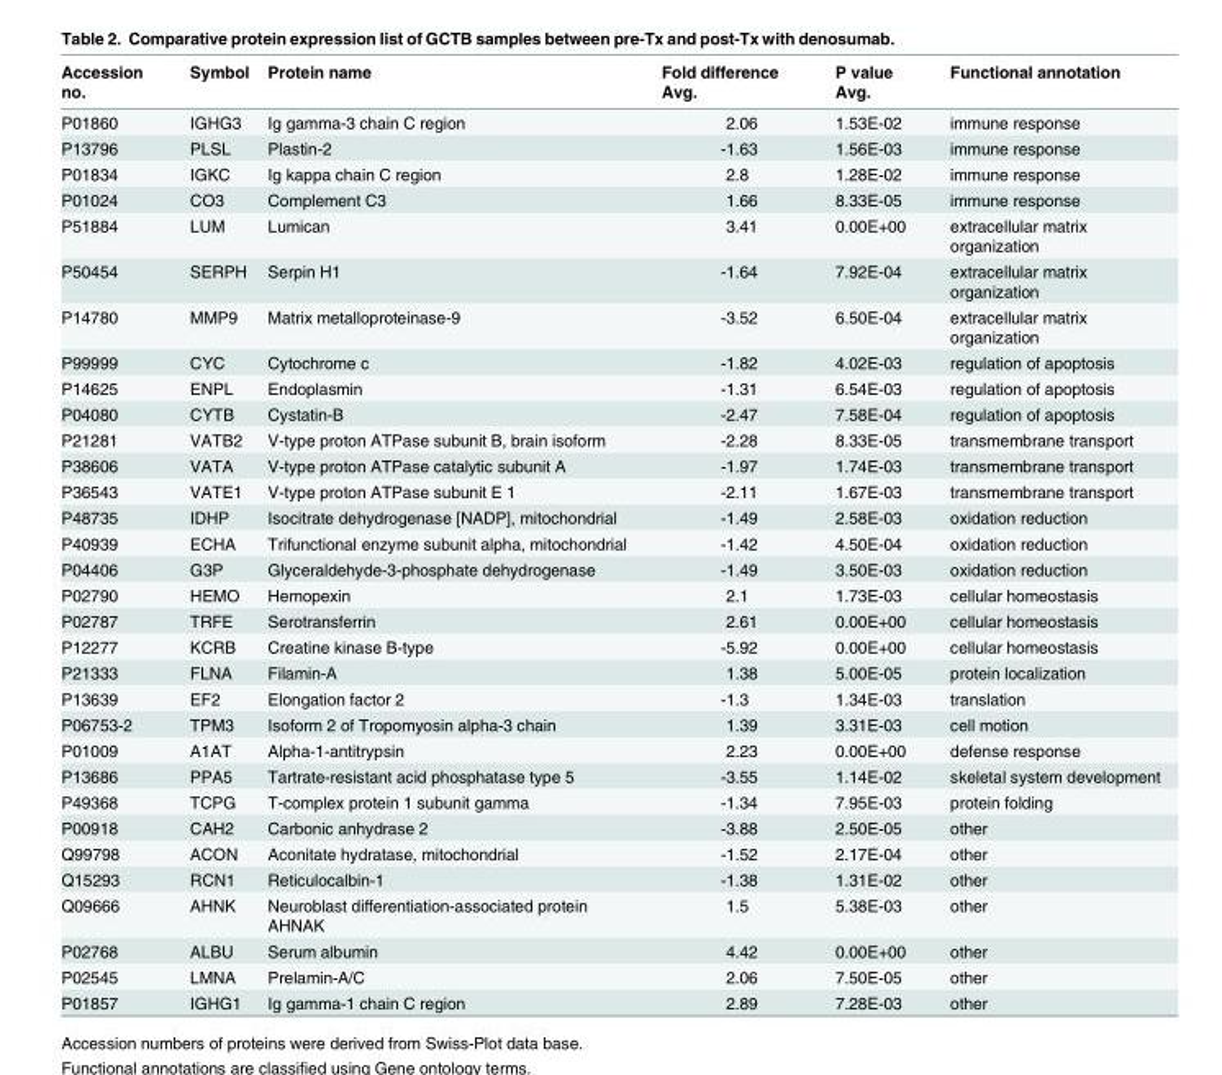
<table><thead><tr><td>Accession no.</td><td>Symbol</td><td>Protein name</td><td>Fold difference Avg.</td><td>P value Avg.</td><td>Functional annotation</td></tr></thead><tbody><tr><td>P01860</td><td>IGHG3</td><td>Ig gamma-3 chain C region</td><td>2.06</td><td>1.53E-02</td><td>immune response</td></tr><tr><td>P13796</td><td>PLSL</td><td>Plastin-2</td><td>-1.63</td><td>1.56E-03</td><td>immune response</td></tr><tr><td>P01834</td><td>IGKC</td><td>Ig kappa chain C region</td><td>2.8</td><td>1.28E-02</td><td>immune response</td></tr><tr><td>P01024</td><td>CO3</td><td>Complement C3</td><td>1.66</td><td>8.33E-05</td><td>immune response</td></tr><tr><td>P51884</td><td>LUM</td><td>Lumican</td><td>3.41</td><td>0.00E+00</td><td>extracellular matrix organization</td></tr><tr><td>P50454</td><td>SERPH</td><td>Serpin H1</td><td>-1.64</td><td>7.92E-04</td><td>extracellular matrix organization</td></tr><tr><td>P14780</td><td>MMP9</td><td>Matrix metalloproteinase-9</td><td>-3.52</td><td>6.50E-04</td><td>extracellular matrix organization</td></tr><tr><td>P99999</td><td>CYC</td><td>Cytochrome c</td><td>-1.82</td><td>4.02E-03</td><td>regulation of apoptosis</td></tr><tr><td>P14625</td><td>ENPL</td><td>Endoplasmin</td><td>-1.31</td><td>6.54E-03</td><td>regulation of apoptosis</td></tr><tr><td>P04080</td><td>CYTB</td><td>Cystatin-B</td><td>-2.47</td><td>7.58E-04</td><td>regulation of apoptosis</td></tr><tr><td>P21281</td><td>VATB2</td><td>V-type proton ATPase subunit B, brain isoform</td><td>-2.28</td><td>8.33E-05</td><td>transmembrane transport</td></tr><tr><td>P38606</td><td>VATA</td><td>V-type proton ATPase catalytic subunit A</td><td>-1.97</td><td>1.74E-03</td><td>transmembrane transport</td></tr><tr><td>P36543</td><td>VATE1</td><td>V-type proton ATPase subunit E 1</td><td>-2.11</td><td>1.67E-03</td><td>transmembrane transport</td></tr><tr><td>P48735</td><td>IDHP</td><td>Isocitrate dehydrogenase [NADP], mitochondrial</td><td>-1.49</td><td>2.58E-03</td><td>oxidation reduction</td></tr><tr><td>P40939</td><td>ECHA</td><td>Trifunctional enzyme subunit alpha, mitochondrial</td><td>-1.42</td><td>4.50E-04</td><td>oxidation reduction</td></tr><tr><td>P04406</td><td>G3P</td><td>Glyceraldehyde-3-phosphate dehydrogenase</td><td>-1.49</td><td>3.50E-03</td><td>oxidation reduction</td></tr><tr><td>P02790</td><td>HEMO</td><td>Hemopexin</td><td>2.1</td><td>1.73E-03</td><td>cellular homeostasis</td></tr><tr><td>P02787</td><td>TRFE</td><td>Serotransferrin</td><td>2.61</td><td>0.00E+00</td><td>cellular homeostasis</td></tr><tr><td>P12277</td><td>KCRB</td><td>Creatine kinase B-type</td><td>-5.92</td><td>0.00E+00</td><td>cellular homeostasis</td></tr><tr><td>P21333</td><td>FLNA</td><td>Filamin-A</td><td>1.38</td><td>5.00E-05</td><td>protein localization</td></tr><tr><td>P13639</td><td>EF2</td><td>Elongation factor 2</td><td>-1.3</td><td>1.34E-03</td><td>translation</td></tr><tr><td>P06753-2</td><td>TPM3</td><td>Isoform 2 of Tropomyosin alpha-3 chain</td><td>1.39</td><td>3.31E-03</td><td>cell motion</td></tr><tr><td>P01009</td><td>A1AT</td><td>Alpha-1-antitrypsin</td><td>2.23</td><td>0.00E+00</td><td>defense response</td></tr><tr><td>P13686</td><td>PPA5</td><td>Tartrate-resistant acid phosphatase type 5</td><td>-3.55</td><td>1.14E-02</td><td>skeletal system development</td></tr><tr><td>P49368</td><td>TCPG</td><td>T-complex protein 1 subunit gamma</td><td>-1.34</td><td>7.95E-03</td><td>protein folding</td></tr><tr><td>P00918</td><td>CAH2</td><td>Carbonic anhydrase 2</td><td>-3.88</td><td>2.50E-05</td><td>other</td></tr><tr><td>Q99798</td><td>ACON</td><td>Aconitate hydratase, mitochondrial</td><td>-1.52</td><td>2.17E-04</td><td>other</td></tr><tr><td>Q15293</td><td>RCN1</td><td>Reticulocalbin-1</td><td>-1.38</td><td>1.31E-02</td><td>other</td></tr><tr><td>Q09666</td><td>AHNK</td><td>Neuroblast differentiation-associated protein AHNAK</td><td>1.5</td><td>5.38E-03</td><td>other</td></tr><tr><td>P02768</td><td>ALBU</td><td>Serum albumin</td><td>4.42</td><td>0.00E+00</td><td>other</td></tr><tr><td>P02545</td><td>LMNA</td><td>Prelamin-A/C</td><td>2.06</td><td>7.50E-05</td><td>other</td></tr><tr><td>P01857</td><td>IGHG1</td><td>Ig gamma-1 chain C region</td><td>2.89</td><td>7.28E-03</td><td>other</td></tr></tbody></table>